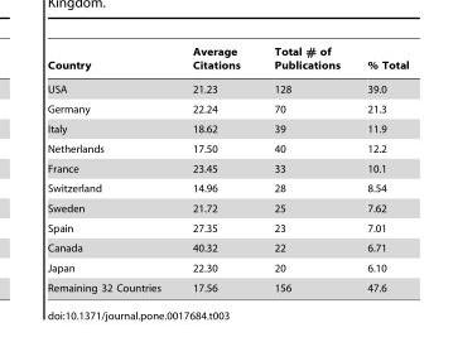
<table><thead><tr><td>Country</td><td>Average Citations</td><td>Total # of Publications</td><td>% Total</td></tr></thead><tbody><tr><td>USA</td><td>21.23</td><td>128</td><td>39.0</td></tr><tr><td>Germany</td><td>22.24</td><td>70</td><td>21.3</td></tr><tr><td>Italy</td><td>18.62</td><td>39</td><td>11.9</td></tr><tr><td>Netherlands</td><td>17.50</td><td>40</td><td>12.2</td></tr><tr><td>France</td><td>23.45</td><td>33</td><td>10.1</td></tr><tr><td>Switzerland</td><td>14.96</td><td>28</td><td>8.54</td></tr><tr><td>Sweden</td><td>21.72</td><td>25</td><td>7.62</td></tr><tr><td>Spain</td><td>27.35</td><td>23</td><td>7.01</td></tr><tr><td>Canada</td><td>40.32</td><td>22</td><td>6.71</td></tr><tr><td>Japan</td><td>22.30</td><td>20</td><td>6.10</td></tr><tr><td>Remaining 32 Countries</td><td>17.56</td><td>156</td><td>47.6</td></tr></tbody></table>